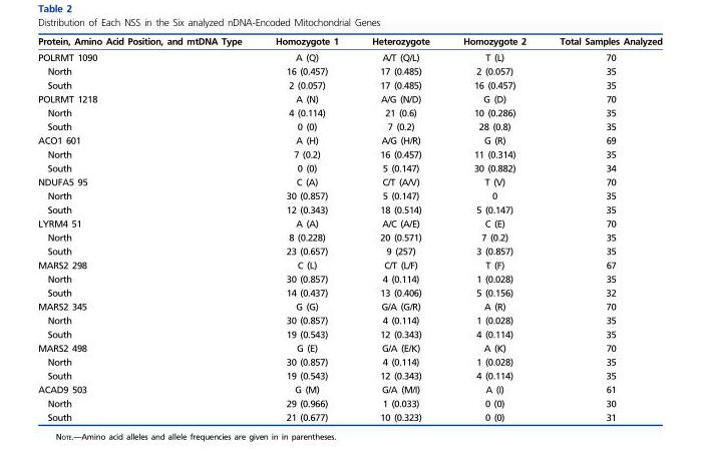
<table><thead><tr><td>Protein, Amino Acid Position, and mtDNA Type</td><td>Homozygote 1</td><td>Heterozygote</td><td>Homozygote 2</td><td>Total Samples Analyzed</td></tr></thead><tbody><tr><td>POLRMT 1090</td><td>A (Q)</td><td>A/T (Q/L)</td><td>T (L)</td><td>70</td></tr><tr><td>North</td><td>16 (0.457)</td><td>17 (0.485)</td><td>2 (0.057)</td><td>35</td></tr><tr><td>South</td><td>2 (0.057)</td><td>17 (0.485)</td><td>16 (0.457)</td><td>35</td></tr><tr><td>POLRMT 1218</td><td>A (N)</td><td>A/G (N/D)</td><td>G (D)</td><td>70</td></tr><tr><td>North</td><td>4 (0.114)</td><td>21 (0.6)</td><td>10 (0.286)</td><td>35</td></tr><tr><td>South</td><td>0 (0)</td><td>7 (0.2)</td><td>28 (0.8)</td><td>35</td></tr><tr><td>ACO1 601</td><td>A (H)</td><td>A/G (H/R)</td><td>G (R)</td><td>69</td></tr><tr><td>North</td><td>7 (0.2)</td><td>16 (0.457)</td><td>11 (0.314)</td><td>35</td></tr><tr><td>South</td><td>0 (0)</td><td>5 (0.147)</td><td>30 (0.882)</td><td>34</td></tr><tr><td>NDUFA5 95</td><td>C (A)</td><td>C/T (A/V)</td><td>T (V)</td><td>70</td></tr><tr><td>North</td><td>30 (0.857)</td><td>5 (0.147)</td><td>0</td><td>35</td></tr><tr><td>South</td><td>12 (0.343)</td><td>18 (0.514)</td><td>5 (0.147)</td><td>35</td></tr><tr><td>LYRM4 51</td><td>A (A)</td><td>A/C (A/E)</td><td>C (E)</td><td>70</td></tr><tr><td>North</td><td>8 (0.228)</td><td>20 (0.571)</td><td>7 (0.2)</td><td>35</td></tr><tr><td>South</td><td>23 (0.657)</td><td>9 (257)</td><td>3 (0.857)</td><td>35</td></tr><tr><td>MARS2 298</td><td>C (L)</td><td>C/T (L/F)</td><td>T (F)</td><td>67</td></tr><tr><td>North</td><td>30 (0.857)</td><td>4 (0.114)</td><td>1 (0.028)</td><td>35</td></tr><tr><td>South</td><td>14 (0.437)</td><td>13 (0.406)</td><td>5 (0.156)</td><td>32</td></tr><tr><td>MARS2 345</td><td>G (G)</td><td>G/A (G/R)</td><td>A (R)</td><td>70</td></tr><tr><td>North</td><td>30 (0.857)</td><td>4 (0.114)</td><td>1 (0.028)</td><td>35</td></tr><tr><td>South</td><td>19 (0.543)</td><td>12 (0.343)</td><td>4 (0.114)</td><td>35</td></tr><tr><td>MARS2 498</td><td>G (E)</td><td>G/A (E/K)</td><td>A (K)</td><td>70</td></tr><tr><td>North</td><td>30 (0.857)</td><td>4 (0.114)</td><td>1 (0.028)</td><td>35</td></tr><tr><td>South</td><td>19 (0.543)</td><td>12 (0.343)</td><td>4 (0.114)</td><td>35</td></tr><tr><td>ACAD9 503</td><td>G (M)</td><td>G/A (M/I)</td><td>A (I)</td><td>61</td></tr><tr><td>North</td><td>29 (0.966)</td><td>1 (0.033)</td><td>0 (0)</td><td>30</td></tr><tr><td>South</td><td>21 (0.677)</td><td>10 (0.323)</td><td>0 (0)</td><td>31</td></tr></tbody></table>